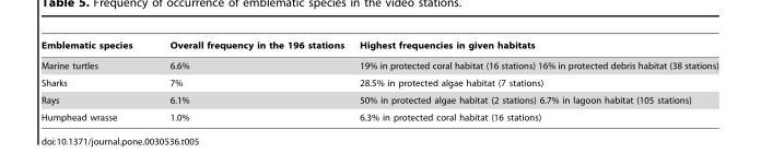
<table><thead><tr><td>Emblematic species</td><td>Overall frequency in the 196 stations</td><td>Highest frequencies in given habitats</td></tr></thead><tbody><tr><td>Marine turtles</td><td>6.6%</td><td>19% in protected coral habitat (16 stations) 16% in protected debris habitat (38 stations)</td></tr><tr><td>Sharks</td><td>7%</td><td>28.5% in protected algae habitat (7 stations)</td></tr><tr><td>Rays</td><td>6.1%</td><td>50% in protected algae habitat (2 stations) 6.7% in lagoon habitat (105 stations)</td></tr><tr><td>Humphead wrasse</td><td>1.0%</td><td>6.3% in protected coral habitat (16 stations)</td></tr></tbody></table>